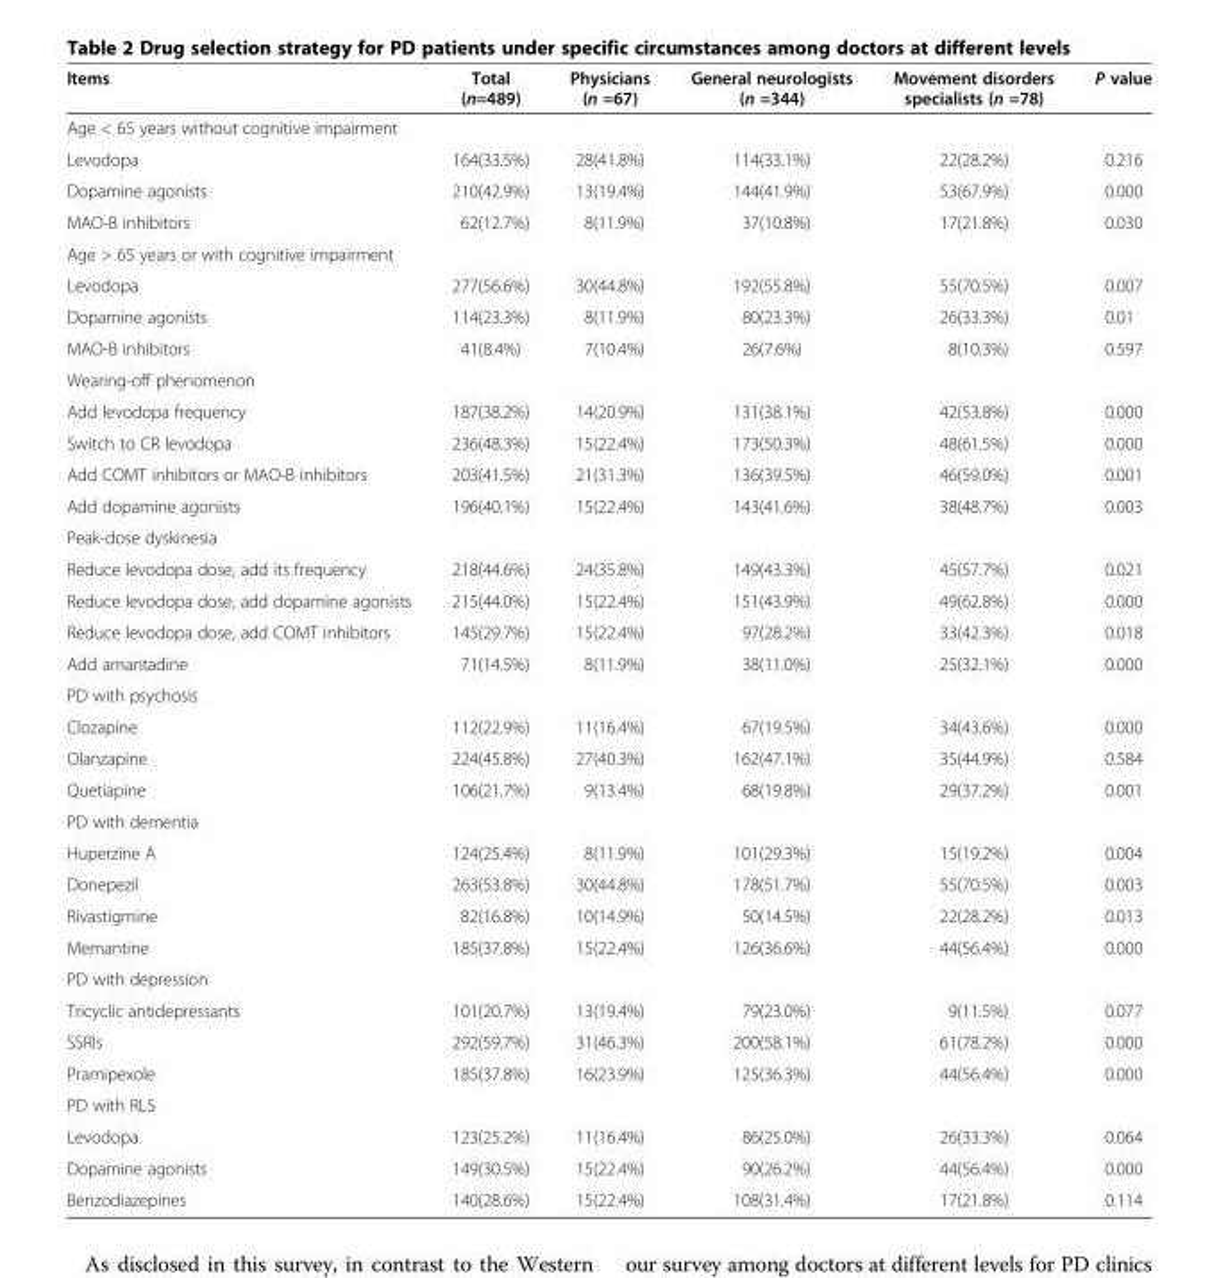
<table><thead><tr><td>Items</td><td>Total (n=489)</td><td>Physicians (n =67)</td><td>General neurologists (n =344)</td><td>Movement disorders specialists (n =78)</td><td>P value</td></tr></thead><tbody><tr><td colspan="6">Age &lt; 65 years without cognitive impairment</td></tr><tr><td>Levodopa</td><td>164(33.5%)</td><td>28(41.8%)</td><td>114(33.1%)</td><td>22(28.2%)</td><td>0.216</td></tr><tr><td>Dopamine agonists</td><td>210(42.9%)</td><td>13(19.4%)</td><td>144(41.9%)</td><td>53(67.9%)</td><td>0.000</td></tr><tr><td>MAO-B inhibitors</td><td>62(12.7%)</td><td>8(11.9%)</td><td>37(10.8%)</td><td>17(21.8%)</td><td>0.030</td></tr><tr><td colspan="6">Age &gt; 65 years or with cognitive impairment</td></tr><tr><td>Levodopa</td><td>277(56.6%)</td><td>30(44.8%)</td><td>192(55.8%)</td><td>55(70.5%)</td><td>0.007</td></tr><tr><td>Dopamine agonists</td><td>114(23.3%)</td><td>8(11.9%)</td><td>80(23.3%)</td><td>26(33.3%)</td><td>0.01</td></tr><tr><td>MAO-B inhibitors</td><td>41(8.4%)</td><td>7(10.4%)</td><td>26(7.6%)</td><td>8(10.3%)</td><td>0.597</td></tr><tr><td colspan="6">Wearing-off phenomenon</td></tr><tr><td>Add levodopa frequency</td><td>187(38.2%)</td><td>14(20.9%)</td><td>131(38.1%)</td><td>42(53.8%)</td><td>0.000</td></tr><tr><td>Switch to CR levodopa</td><td>236(48.3%)</td><td>15(22.4%)</td><td>173(50.3%)</td><td>48(61.5%)</td><td>0.000</td></tr><tr><td>Add COMT inhibitors or MAO-B inhibitors</td><td>203(41.5%)</td><td>21(31.3%)</td><td>136(39.5%)</td><td>46(59.0%)</td><td>0.001</td></tr><tr><td>Add dopamine agonists</td><td>196(40.1%)</td><td>15(22.4%)</td><td>143(41.6%)</td><td>38(48.7%)</td><td>0.003</td></tr><tr><td colspan="6">Peak-dose dyskinesia</td></tr><tr><td>Reduce levodopa dose, add its frequency</td><td>218(44.6%)</td><td>24(35.8%)</td><td>149(43.3%)</td><td>45(57.7%)</td><td>0.021</td></tr><tr><td>Reduce levodopa dose, add dopamine agonists</td><td>215(44.0%)</td><td>15(22.4%)</td><td>151(43.9%)</td><td>49(62.8%)</td><td>0.000</td></tr><tr><td>Reduce levodopa dose, add COMT inhibitors</td><td>145(29.7%)</td><td>15(22.4%)</td><td>97(28.2%)</td><td>33(42.3%)</td><td>0.018</td></tr><tr><td>Add amantadine</td><td>71(14.5%)</td><td>8(11.9%)</td><td>38(11.0%)</td><td>25(32.1%)</td><td>0.000</td></tr><tr><td colspan="6">PD with psychosis</td></tr><tr><td>Clozapine</td><td>112(22.9%)</td><td>11(16.4%)</td><td>67(19.5%)</td><td>34(43.6%)</td><td>0.000</td></tr><tr><td>Olanzapine</td><td>224(45.8%)</td><td>27(40.3%)</td><td>162(47.1%)</td><td>35(44.9%)</td><td>0.584</td></tr><tr><td>Quetiapine</td><td>106(21.7%)</td><td>9(13.4%)</td><td>68(19.8%)</td><td>29(37.2%)</td><td>0.001</td></tr><tr><td colspan="6">PD with dementia</td></tr><tr><td>Huperzine A</td><td>124(25.4%)</td><td>8(11.9%)</td><td>101(29.3%)</td><td>15(19.2%)</td><td>0.004</td></tr><tr><td>Donepezil</td><td>263(53.8%)</td><td>30(44.8%)</td><td>178(51.7%)</td><td>55(70.5%)</td><td>0.003</td></tr><tr><td>Rivastigmine</td><td>82(16.8%)</td><td>10(14.9%)</td><td>50(14.5%)</td><td>22(28.2%)</td><td>0.013</td></tr><tr><td>Memantine</td><td>185(37.8%)</td><td>15(22.4%)</td><td>126(36.6%)</td><td>44(56.4%)</td><td>0.000</td></tr><tr><td colspan="6">PD with depression</td></tr><tr><td>Tricyclic antidepressants</td><td>101(20.7%)</td><td>13(19.4%)</td><td>79(23.0%)</td><td>9(11.5%)</td><td>0.077</td></tr><tr><td>SSRIs</td><td>292(59.7%)</td><td>31(46.3%)</td><td>200(58.1%)</td><td>61(78.2%)</td><td>0.000</td></tr><tr><td>Pramipexole</td><td>185(37.8%)</td><td>16(23.9%)</td><td>125(36.3%)</td><td>44(56.4%)</td><td>0.000</td></tr><tr><td colspan="6">PD with RLS</td></tr><tr><td>Levodopa</td><td>123(25.2%)</td><td>11(16.4%)</td><td>86(25.0%)</td><td>26(33.3%)</td><td>0.064</td></tr><tr><td>Dopamine agonists</td><td>149(30.5%)</td><td>15(22.4%)</td><td>90(26.2%)</td><td>44(56.4%)</td><td>0.000</td></tr><tr><td>Benzodiazepines</td><td>140(28.6%)</td><td>15(22.4%)</td><td>108(31.4%)</td><td>17(21.8%)</td><td>0.114</td></tr></tbody></table>